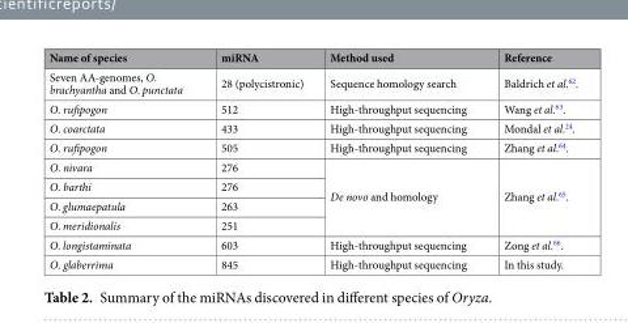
<table><thead><tr><td>Name of species</td><td>miRNA</td><td>Method used</td><td>Reference</td></tr></thead><tbody><tr><td>Seven AA-genomes, O. brachyantha and O. punctata</td><td>28 (polycistronic)</td><td>Sequence homology search</td><td>Baldrich et al.<sup>62</sup>.</td></tr><tr><td>O. rufipogon</td><td>512</td><td>High-throughput sequencing</td><td>Wang et al.<sup>63</sup>.</td></tr><tr><td>O. coarctata</td><td>433</td><td>High-throughput sequencing</td><td>Mondal et al.<sup>24</sup>.</td></tr><tr><td>O. rufipogon</td><td>505</td><td>High-throughput sequencing</td><td>Zhang et al.<sup>64</sup>.</td></tr><tr><td>O. nivara</td><td>276</td><td rowspan="4">De novo and homology</td><td rowspan="4">Zhang et al.<sup>65</sup>.</td></tr><tr><td>O. barthi</td><td>276</td></tr><tr><td>O. glumaepatula</td><td>263</td></tr><tr><td>O. meridionalis</td><td>251</td></tr><tr><td>O. longistaminata</td><td>603</td><td>High-throughput sequencing</td><td>Zong et al.<sup>66</sup>.</td></tr><tr><td>O. glaberrima</td><td>845</td><td>High-throughput sequencing</td><td>In this study.</td></tr></tbody></table>